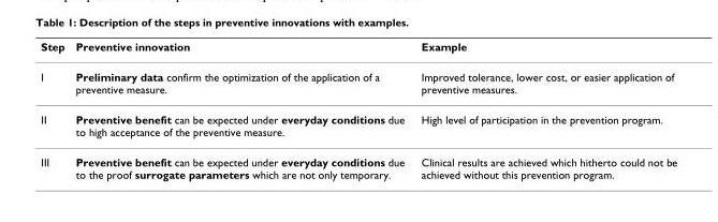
<table><thead><tr><td>Step</td><td>Preventive innovation</td><td>Example</td></tr></thead><tbody><tr><td>I</td><td>Preliminary data confirm the optimization of the application of a preventive measure.</td><td>Improved tolerance, lower cost, or easier application of preventive measures.</td></tr><tr><td>II</td><td>Preventive benefit can be expected under everyday conditions due to high acceptance of the preventive measure.</td><td>High level of participation in the prevention program.</td></tr><tr><td>III</td><td>Preventive benefit can be expected under everyday conditions due to the proof surrogate parameters which are not only temporary.</td><td>Clinical results are achieved which hitherto could not be achieved without this prevention program.</td></tr></tbody></table>